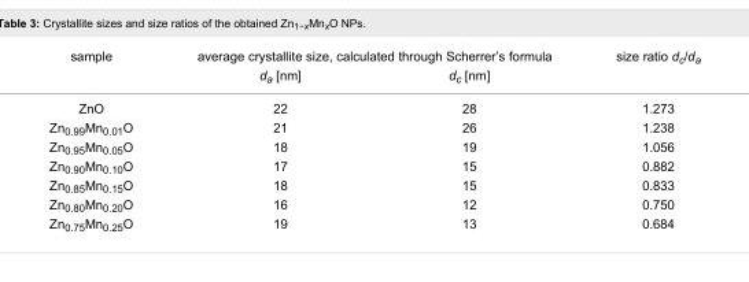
<table><tbody><tr><td rowspan="2">sample</td><td colspan="2">average crystallite size, calculated through Scherrer’s formula</td><td rowspan="2">size ratio d<sub>c</sub>/d<sub>a</sub></td></tr><tr><td>d<sub>a</sub> [nm]</td><td>d<sub>c</sub> [nm]</td></tr><tr><td>ZnO</td><td>22</td><td>28</td><td>1.273</td></tr><tr><td>Zn<sub>0.99</sub>Mn<sub>0.01</sub>O</td><td>21</td><td>26</td><td>1.238</td></tr><tr><td>Zn<sub>0.95</sub>Mn<sub>0.05</sub>O</td><td>18</td><td>19</td><td>1.056</td></tr><tr><td>Zn<sub>0.90</sub>Mn<sub>0.10</sub>O</td><td>17</td><td>15</td><td>0.882</td></tr><tr><td>Zn<sub>0.85</sub>Mn<sub>0.15</sub>O</td><td>18</td><td>15</td><td>0.833</td></tr><tr><td>Zn<sub>0.80</sub>Mn<sub>0.20</sub>O</td><td>16</td><td>12</td><td>0.750</td></tr><tr><td>Zn<sub>0.75</sub>Mn<sub>0.25</sub>O</td><td>19</td><td>13</td><td>0.684</td></tr></tbody></table>